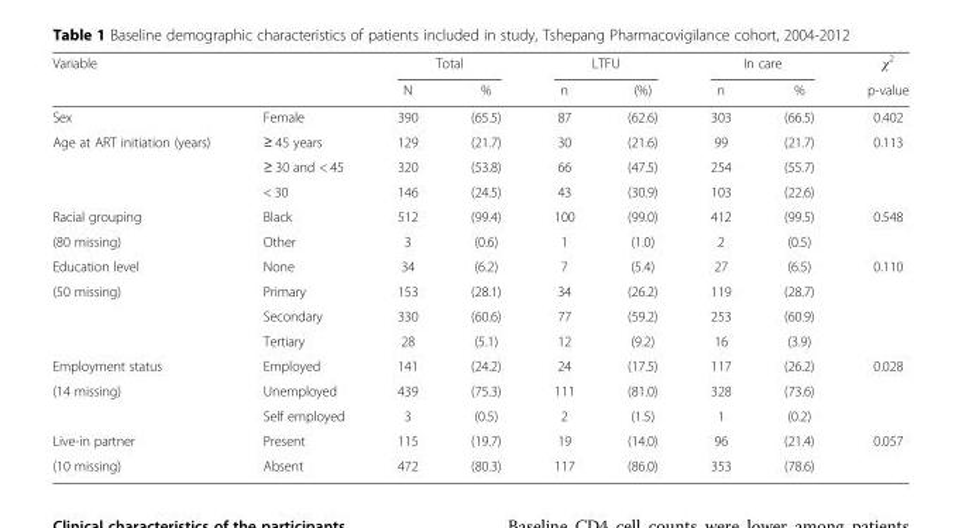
<table><thead><tr><td rowspan="2">Variable</td><td rowspan="2"></td><td colspan="2">Total</td><td colspan="2">LTFU</td><td colspan="2">In care</td><td rowspan="2">χ<sup>2</sup> p-value</td></tr><tr><td>N</td><td>%</td><td>n</td><td>(%)</td><td>n</td><td>%</td></tr></thead><tbody><tr><td>Sex</td><td>Female</td><td>390</td><td>(65.5)</td><td>87</td><td>(62.6)</td><td>303</td><td>(66.5)</td><td>0.402</td></tr><tr><td rowspan="3">Age at ART initiation (years)</td><td>≥ 45 years</td><td>129</td><td>(21.7)</td><td>30</td><td>(21.6)</td><td>99</td><td>(21.7)</td><td rowspan="3">0.113</td></tr><tr><td>≥ 30 and &lt; 45</td><td>320</td><td>(53.8)</td><td>66</td><td>(47.5)</td><td>254</td><td>(55.7)</td></tr><tr><td>&lt; 30</td><td>146</td><td>(24.5)</td><td>43</td><td>(30.9)</td><td>103</td><td>(22.6)</td></tr><tr><td>Racial grouping</td><td>Black</td><td>512</td><td>(99.4)</td><td>100</td><td>(99.0)</td><td>412</td><td>(99.5)</td><td rowspan="2">0.548</td></tr><tr><td>(80 missing)</td><td>Other</td><td>3</td><td>(0.6)</td><td>1</td><td>(1.0)</td><td>2</td><td>(0.5)</td></tr><tr><td>Education level</td><td>None</td><td>34</td><td>(6.2)</td><td>7</td><td>(5.4)</td><td>27</td><td>(6.5)</td><td rowspan="4">0.110</td></tr><tr><td rowspan="3">(50 missing)</td><td>Primary</td><td>153</td><td>(28.1)</td><td>34</td><td>(26.2)</td><td>119</td><td>(28.7)</td></tr><tr><td>Secondary</td><td>330</td><td>(60.6)</td><td>77</td><td>(59.2)</td><td>253</td><td>(60.9)</td></tr><tr><td>Tertiary</td><td>28</td><td>(5.1)</td><td>12</td><td>(9.2)</td><td>16</td><td>(3.9)</td></tr><tr><td>Employment status</td><td>Employed</td><td>141</td><td>(24.2)</td><td>24</td><td>(17.5)</td><td>117</td><td>(26.2)</td><td rowspan="3">0.028</td></tr><tr><td rowspan="2">(14 missing)</td><td>Unemployed</td><td>439</td><td>(75.3)</td><td>111</td><td>(81.0)</td><td>328</td><td>(73.6)</td></tr><tr><td>Self employed</td><td>3</td><td>(0.5)</td><td>2</td><td>(1.5)</td><td>1</td><td>(0.2)</td></tr><tr><td>Live-in partner</td><td>Present</td><td>115</td><td>(19.7)</td><td>19</td><td>(14.0)</td><td>96</td><td>(21.4)</td><td rowspan="2">0.057</td></tr><tr><td>(10 missing)</td><td>Absent</td><td>472</td><td>(80.3)</td><td>117</td><td>(86.0)</td><td>353</td><td>(78.6)</td></tr></tbody></table>